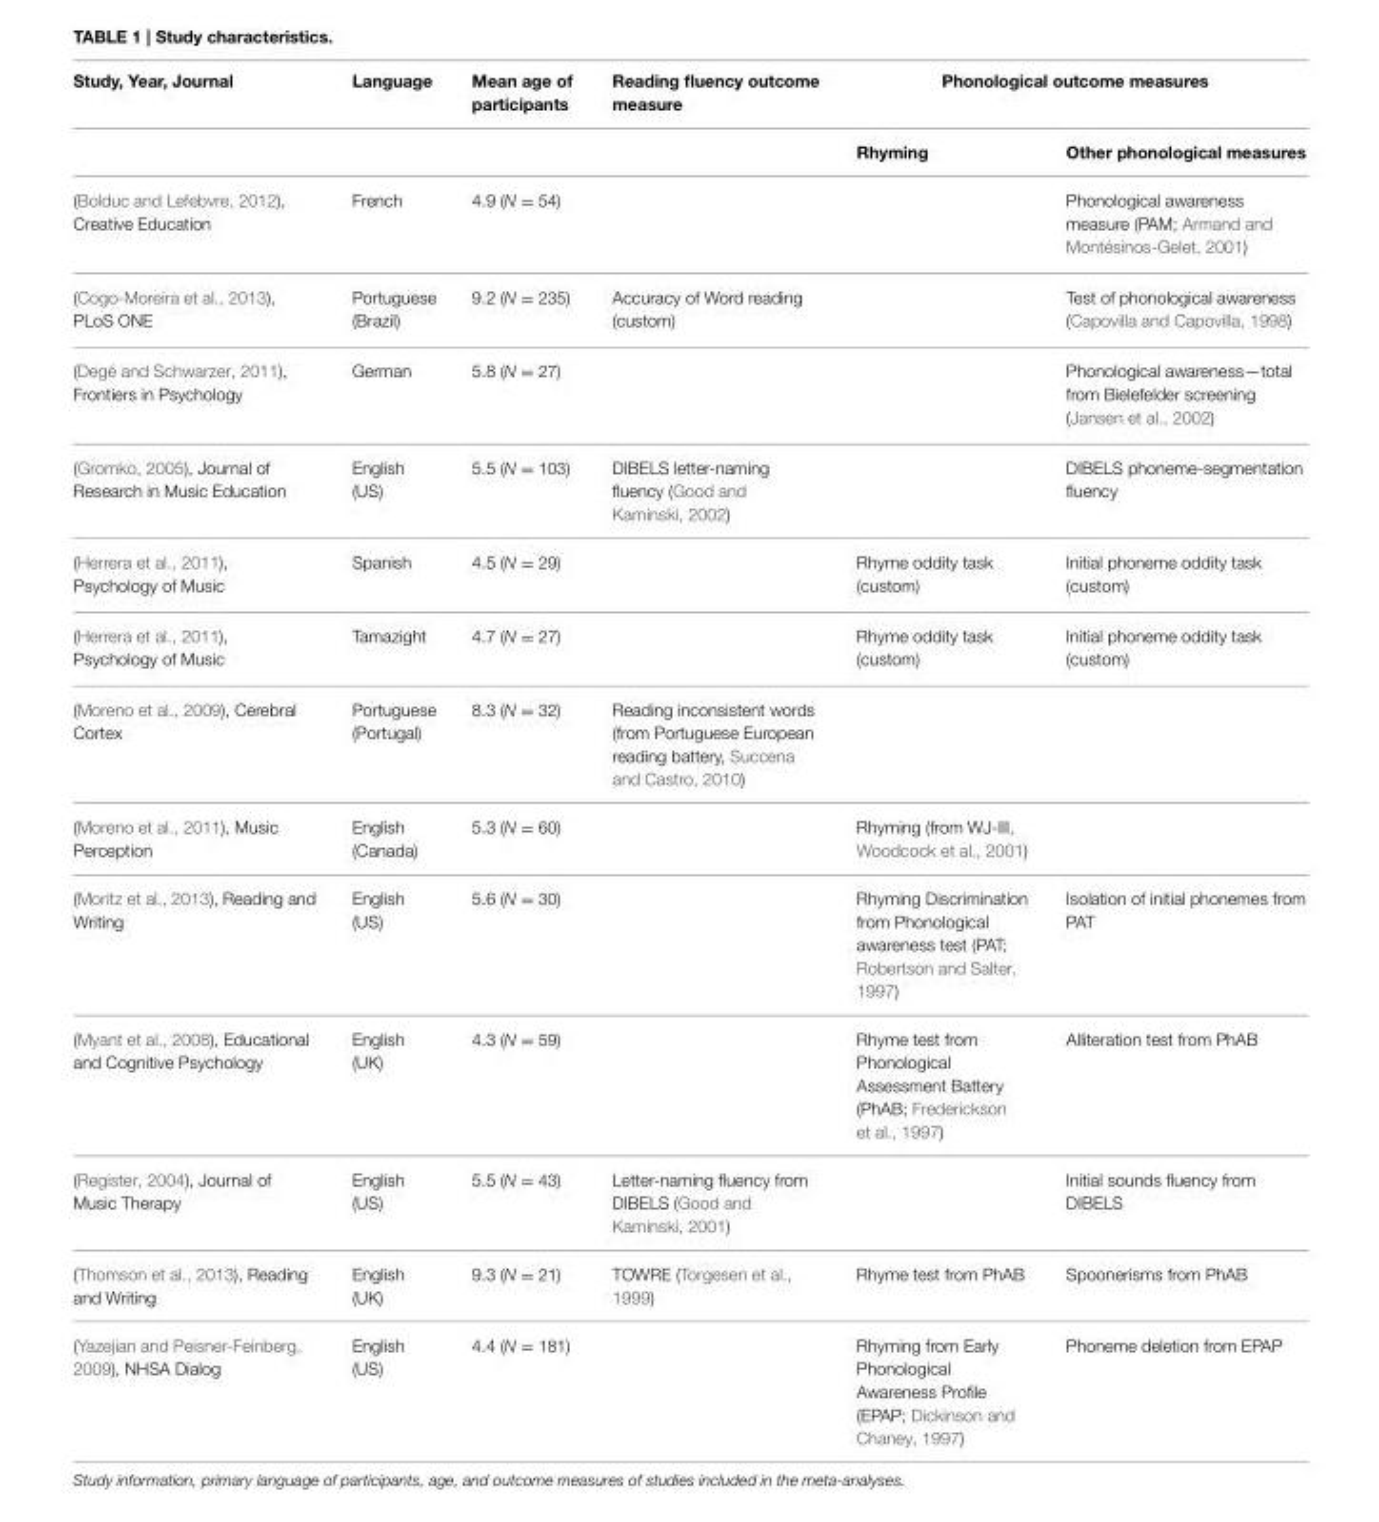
<table><thead><tr><td rowspan="2">Study, Year, Journal</td><td rowspan="2">Language</td><td rowspan="2">Mean age of participants</td><td rowspan="2">Reading fluency outcome measure</td><td colspan="2">Phonological outcome measures</td></tr><tr><td>Rhyming</td><td>Other phonological measures</td></tr></thead><tbody><tr><td>(Bolduc and Lefebvre, 2012), Creative Education</td><td>French</td><td>4.9 (N = 54)</td><td></td><td></td><td>Phonological awareness measure (PAM; Armand and Montésinos-Gelet, 2001)</td></tr><tr><td>(Cogo-Moreira et al., 2013), PLoS ONE</td><td>Portuguese (Brazil)</td><td>9.2 (N = 235)</td><td>Accuracy of Word reading (custom)</td><td></td><td>Test of phonological awareness (Capovilla and Capovilla, 1998)</td></tr><tr><td>(Degé and Schwarzer, 2011), Frontiers in Psychology</td><td>German</td><td>5.8 (N = 27)</td><td></td><td></td><td>Phonological awareness—total from Bielefelder screening (Jansen et al., 2002)</td></tr><tr><td>(Gromko, 2005), Journal of Research in Music Education</td><td>English (US)</td><td>5.5 (N = 103)</td><td>DIBELS letter-naming fluency (Good and Kaminski, 2002)</td><td></td><td>DIBELS phoneme-segmentation fluency</td></tr><tr><td>(Herrera et al., 2011), Psychology of Music</td><td>Spanish</td><td>4.5 (N = 29)</td><td></td><td>Rhyme oddity task (custom)</td><td>Initial phoneme oddity task (custom)</td></tr><tr><td>(Herrera et al., 2011), Psychology of Music</td><td>Tamazight</td><td>4.7 (N = 27)</td><td></td><td>Rhyme oddity task (custom)</td><td>Initial phoneme oddity task (custom)</td></tr><tr><td>(Moreno et al., 2009), Cerebral Cortex</td><td>Portuguese (Portugal)</td><td>8.3 (N = 32)</td><td>Reading inconsistent words (from Portuguese European reading battery, Succena and Castro, 2010)</td><td></td><td></td></tr><tr><td>(Moreno et al., 2011), Music Perception</td><td>English (Canada)</td><td>5.3 (N = 60)</td><td></td><td>Rhyming (from WJ-III, Woodcock et al., 2001)</td><td></td></tr><tr><td>(Moritz et al., 2013), Reading and Writing</td><td>English (US)</td><td>5.6 (N = 30)</td><td></td><td>Rhyming Discrimination from Phonological awareness test (PAT; Robertson and Salter, 1997)</td><td>Isolation of initial phonemes from PAT</td></tr><tr><td>(Myant et al., 2008), Educational and Cognitive Psychology</td><td>English (UK)</td><td>4.3 (N = 59)</td><td></td><td>Rhyme test from Phonological Assessment Battery (PhAB; Frederickson et al., 1997)</td><td>Alliteration test from PhAB</td></tr><tr><td>(Register, 2004), Journal of Music Therapy</td><td>English (US)</td><td>5.5 (N = 43)</td><td>Letter-naming fluency from DIBELS (Good and Kaminski, 2001)</td><td></td><td>Initial sounds fluency from DIBELS</td></tr><tr><td>(Thomson et al., 2013), Reading and Writing</td><td>English (UK)</td><td>9.3 (N = 21)</td><td>TOWRE (Torgesen et al., 1999)</td><td>Rhyme test from PhAB</td><td>Spoonerisms from PhAB</td></tr><tr><td>(Yazejian and Peisner-Feinberg, 2009), NHSA Dialog</td><td>English (US)</td><td>4.4 (N = 181)</td><td></td><td>Rhyming from Early Phonological Awareness Profile (EPAP; Dickinson and Chaney, 1997)</td><td>Phoneme deletion from EPAP</td></tr></tbody></table>